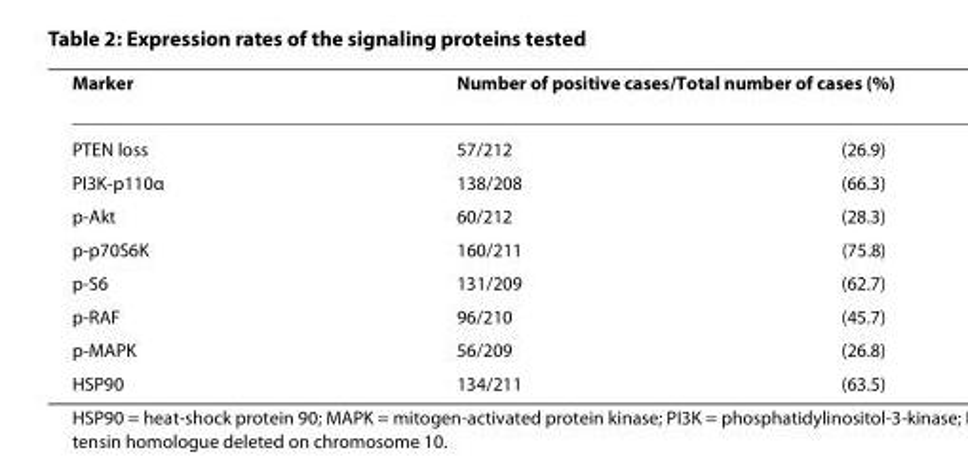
<table><thead><tr><td rowspan="2">Marker PTEN loss</td><td colspan="2">Number of positive cases/Total number of cases (%)</td></tr><tr><td>57/212</td><td>(26.9)</td></tr></thead><tbody><tr><td>PI3K-p110α</td><td>138/208</td><td>(66.3)</td></tr><tr><td>p-Akt</td><td>60/212</td><td>(28.3)</td></tr><tr><td>p-p70S6K</td><td>160/211</td><td>(75.8)</td></tr><tr><td>p-S6</td><td>131/209</td><td>(62.7)</td></tr><tr><td>p-RAF</td><td>96/210</td><td>(45.7)</td></tr><tr><td>p-MAPK</td><td>56/209</td><td>(26.8)</td></tr><tr><td>HSP90</td><td>134/211</td><td>(63.5)</td></tr></tbody></table>